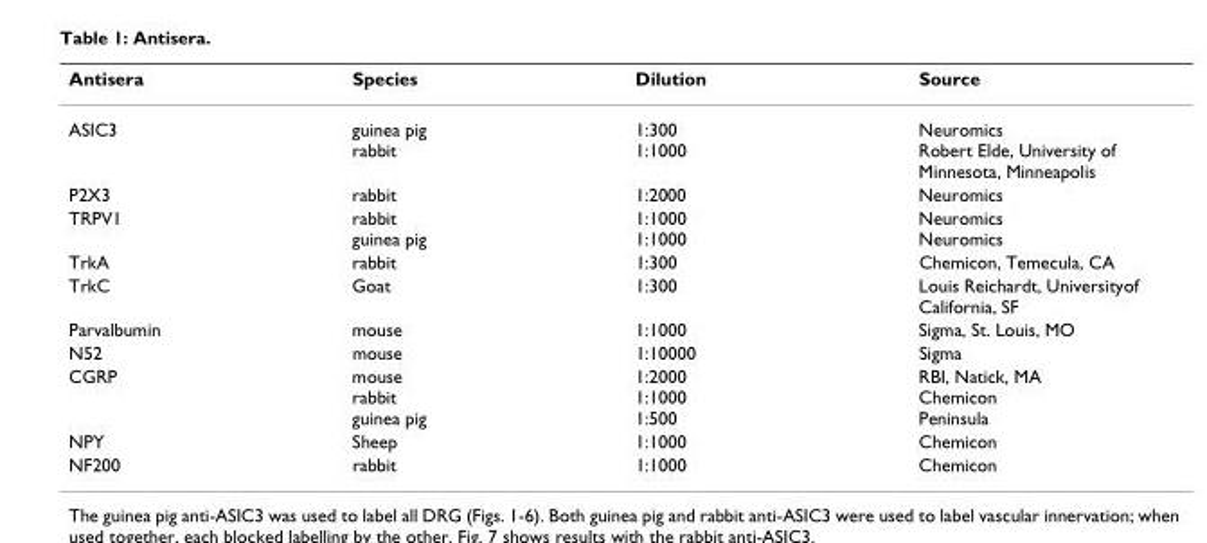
<table><thead><tr><td>Antisera</td><td>Species</td><td>Dilution</td><td>Source</td></tr></thead><tbody><tr><td>ASIC3</td><td>guinea pig rabbit</td><td>1:300 1:1000</td><td>Neuromics Robert Elde, University of Minnesota, Minneapolis</td></tr><tr><td>P2X3</td><td>rabbit</td><td>1:2000</td><td>Neuromics</td></tr><tr><td>TRPV1</td><td>rabbit guinea pig</td><td>1:1000 1:1000</td><td>Neuromics Neuromics</td></tr><tr><td>TrkA</td><td>rabbit</td><td>1:300</td><td>Chemicon, Temecula, CA</td></tr><tr><td>TrkC</td><td>Goat</td><td>1:300</td><td>Louis Reichardt, Universityof California, SF</td></tr><tr><td>Parvalbumin</td><td>mouse</td><td>1:1000</td><td>Sigma, St. Louis, MO</td></tr><tr><td>N52</td><td>mouse</td><td>1:10000</td><td>Sigma</td></tr><tr><td>CGRP</td><td>mouse rabbit guinea pig</td><td>1:2000 1:1000 1:500</td><td>RBI, Natick, MA Chemicon Peninsula</td></tr><tr><td>NPY</td><td>Sheep</td><td>1:1000</td><td>Chemicon</td></tr><tr><td>NF200</td><td>rabbit</td><td>1:1000</td><td>Chemicon</td></tr></tbody></table>